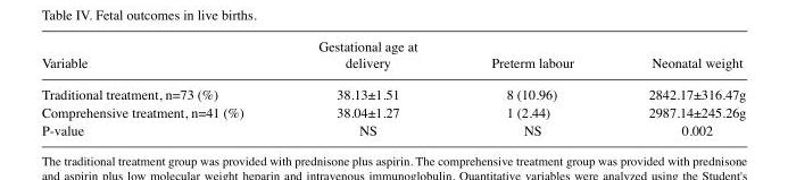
<table><thead><tr><td>Variable</td><td>Gestational age at delivery</td><td>Preterm labour</td><td>Neonatal weight</td></tr></thead><tbody><tr><td>Traditional treatment, n=73 (%)</td><td>38.13±1.51</td><td>8 (10.96)</td><td>2842.17±316.47g</td></tr><tr><td>Comprehensive treatment, n=41 (%)</td><td>38.04±1.27</td><td>1 (2.44)</td><td>2987.14±245.26g</td></tr><tr><td>P-value</td><td>NS</td><td>NS</td><td>0.002</td></tr></tbody></table>